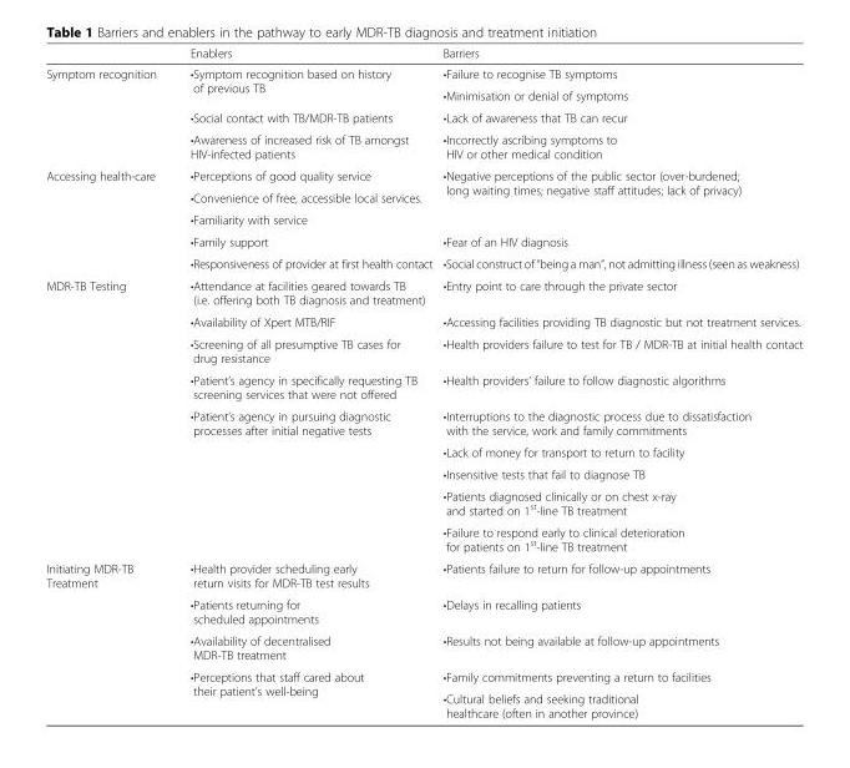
<table><thead><tr><td></td><td>Enablers</td><td>Barriers</td></tr></thead><tbody><tr><td rowspan="4">Symptom recognition</td><td rowspan="2">•Symptom recognition based on history of previous TB</td><td>•Failure to recognise TB symptoms</td></tr><tr><td>•Minimisation or denial of symptoms</td></tr><tr><td>•Social contact with TB/MDR-TB patients</td><td>•Lack of awareness that TB can recur</td></tr><tr><td>•Awareness of increased risk of TB amongst HIV-infected patients</td><td>•Incorrectly ascribing symptoms to HIV or other medical condition</td></tr><tr><td rowspan="5">Accessing health-care</td><td>•Perceptions of good quality service</td><td rowspan="3">•Negative perceptions of the public sector (over-burdened; long waiting times; negative staff attitudes; lack of privacy)</td></tr><tr><td>•Convenience of free, accessible local services.</td></tr><tr><td>•Familiarity with service</td></tr><tr><td>•Family support</td><td>•Fear of an HIV diagnosis</td></tr><tr><td>•Responsiveness of provider at first health contact</td><td>•Social construct of “being a man”, not admitting illness (seen as weakness)</td></tr><tr><td rowspan="9">MDR-TB Testing</td><td>•Attendance at facilities geared towards TB (i.e. offering both TB diagnosis and treatment)</td><td>•Entry point to care through the private sector</td></tr><tr><td>•Availability of Xpert MTB/RIF</td><td>•Accessing facilities providing TB diagnostic but not treatment services.</td></tr><tr><td>•Screening of all presumptive TB cases for drug resistance</td><td>•Health providers failure to test for TB / MDR-TB at initial health contact</td></tr><tr><td>•Patient’s agency in specifically requesting TB screening services that were not offered</td><td>•Health providers’ failure to follow diagnostic algorithms</td></tr><tr><td rowspan="5">•Patient’s agency in pursuing diagnostic processes after initial negative tests</td><td>•Interruptions to the diagnostic process due to dissatisfaction with the service, work and family commitments</td></tr><tr><td>•Lack of money for transport to return to facility</td></tr><tr><td>•Insensitive tests that fail to diagnose TB</td></tr><tr><td>•Patients diagnosed clinically or on chest x-ray and started on 1<sup>st</sup>-line TB treatment</td></tr><tr><td>•Failure to respond early to clinical deterioration for patients on 1<sup>st</sup>-line TB treatment</td></tr><tr><td rowspan="5">Initiating MDR-TB Treatment</td><td>•Health provider scheduling early return visits for MDR-TB test results</td><td>•Patients failure to return for follow-up appointments</td></tr><tr><td>•Patients returning for scheduled appointments</td><td>•Delays in recalling patients</td></tr><tr><td>•Availability of decentralised MDR-TB treatment</td><td>•Results not being available at follow-up appointments</td></tr><tr><td rowspan="2">•Perceptions that staff cared about their patient’s well-being</td><td>•Family commitments preventing a return to facilities</td></tr><tr><td>•Cultural beliefs and seeking traditional healthcare (often in another province)</td></tr></tbody></table>